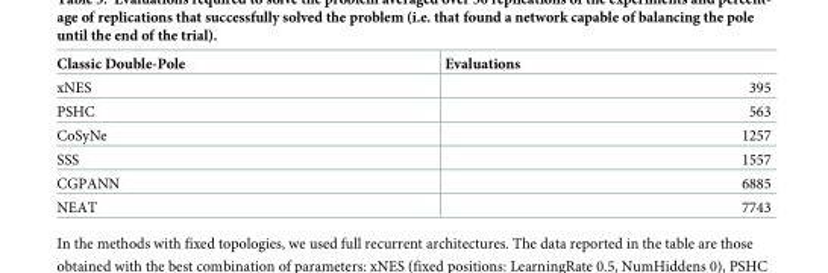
<table><thead><tr><td>Classic Double-Pole</td><td>Evaluations</td></tr></thead><tbody><tr><td>xNES</td><td>395</td></tr><tr><td>PSHC</td><td>563</td></tr><tr><td>CoSyNe</td><td>1257</td></tr><tr><td>SSS</td><td>1557</td></tr><tr><td>CGPANN</td><td>6885</td></tr><tr><td>NEAT</td><td>7743</td></tr></tbody></table>